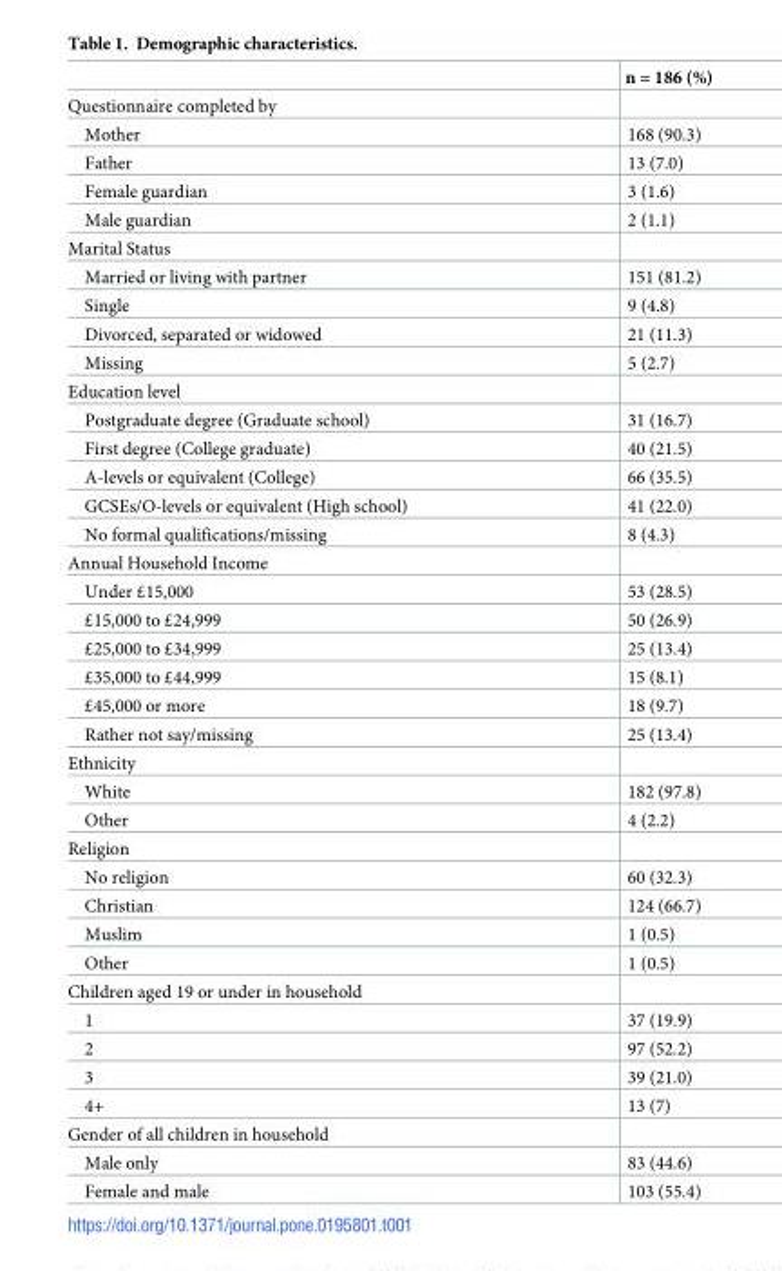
<table><thead><tr><td></td><td>n = 186 (%)</td></tr></thead><tbody><tr><td colspan="2">Questionnaire completed by</td></tr><tr><td>Mother</td><td>168 (90.3)</td></tr><tr><td>Father</td><td>13 (7.0)</td></tr><tr><td>Female guardian</td><td>3 (1.6)</td></tr><tr><td>Male guardian</td><td>2 (1.1)</td></tr><tr><td colspan="2">Marital Status</td></tr><tr><td>Married or living with partner</td><td>151 (81.2)</td></tr><tr><td>Single</td><td>9 (4.8)</td></tr><tr><td>Divorced, separated or widowed</td><td>21 (11.3)</td></tr><tr><td>Missing</td><td>5 (2.7)</td></tr><tr><td colspan="2">Education level</td></tr><tr><td>Postgraduate degree (Graduate school)</td><td>31 (16.7)</td></tr><tr><td>First degree (College graduate)</td><td>40 (21.5)</td></tr><tr><td>A-levels or equivalent (College)</td><td>66 (35.5)</td></tr><tr><td>GCSEs/O-levels or equivalent (High school)</td><td>41 (22.0)</td></tr><tr><td>No formal qualifications/missing</td><td>8 (4.3)</td></tr><tr><td colspan="2">Annual Household Income</td></tr><tr><td>Under £15,000</td><td>53 (28.5)</td></tr><tr><td>£15,000 to £24,999</td><td>50 (26.9)</td></tr><tr><td>£25,000 to £34,999</td><td>25 (13.4)</td></tr><tr><td>£35,000 to £44,999</td><td>15 (8.1)</td></tr><tr><td>£45,000 or more</td><td>18 (9.7)</td></tr><tr><td>Rather not say/missing</td><td>25 (13.4)</td></tr><tr><td colspan="2">Ethnicity</td></tr><tr><td>White</td><td>182 (97.8)</td></tr><tr><td>Other</td><td>4 (2.2)</td></tr><tr><td colspan="2">Religion</td></tr><tr><td>No religion</td><td>60 (32.3)</td></tr><tr><td>Christian</td><td>124 (66.7)</td></tr><tr><td>Muslim</td><td>1 (0.5)</td></tr><tr><td>Other</td><td>1 (0.5)</td></tr><tr><td colspan="2">Children aged 19 or under in household</td></tr><tr><td>1</td><td>37 (19.9)</td></tr><tr><td>2</td><td>97 (52.2)</td></tr><tr><td>3</td><td>39 (21.0)</td></tr><tr><td>4+</td><td>13 (7)</td></tr><tr><td colspan="2">Gender of all children in household</td></tr><tr><td>Male only</td><td>83 (44.6)</td></tr><tr><td>Female and male</td><td>103 (55.4)</td></tr></tbody></table>